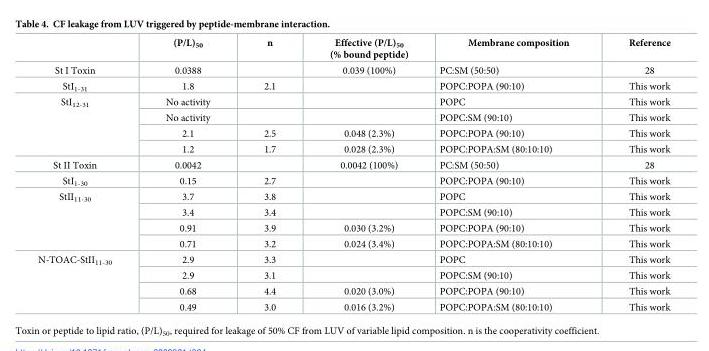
<table><thead><tr><td></td><td>(P/L)<sub>50</sub></td><td>n</td><td>Effective (P/L)<sub>50</sub> (% bound peptide)</td><td>Membrane composition</td><td>Reference</td></tr></thead><tbody><tr><td>St I Toxin</td><td>0.0388</td><td></td><td>0.039 (100%)</td><td>PC:SM (50:50)</td><td>28</td></tr><tr><td>StI<sub>1-31</sub></td><td>1.8</td><td>2.1</td><td></td><td>POPC:POPA (90:10)</td><td>This work</td></tr><tr><td rowspan="4">StI<sub>12-31</sub></td><td>No activity</td><td></td><td></td><td>POPC</td><td>This work</td></tr><tr><td>No activity</td><td></td><td></td><td>POPC:SM (90:10)</td><td>This work</td></tr><tr><td>2.1</td><td>2.5</td><td>0.048 (2.3%)</td><td>POPC:POPA (90:10)</td><td>This work</td></tr><tr><td>1.2</td><td>1.7</td><td>0.028 (2.3%)</td><td>POPC:POPA:SM (80:10:10)</td><td>This work</td></tr><tr><td>St II Toxin</td><td>0.0042</td><td></td><td>0.0042 (100%)</td><td>PC:SM (50:50)</td><td>28</td></tr><tr><td>StI<sub>1-30</sub></td><td>0.15</td><td>2.7</td><td></td><td>POPC:POPA (90:10)</td><td>This work</td></tr><tr><td rowspan="4">StII<sub>11-30</sub></td><td>3.7</td><td>3.8</td><td></td><td>POPC</td><td>This work</td></tr><tr><td>3.4</td><td>3.4</td><td></td><td>POPC:SM (90:10)</td><td>This work</td></tr><tr><td>0.91</td><td>3.9</td><td>0.030 (3.2%)</td><td>POPC:POPA (90:10)</td><td>This work</td></tr><tr><td>0.71</td><td>3.2</td><td>0.024 (3.4%)</td><td>POPC:POPA:SM (80:10:10)</td><td>This work</td></tr><tr><td rowspan="4">N-TOAC-StII<sub>11-30</sub></td><td>2.9</td><td>3.3</td><td></td><td>POPC</td><td>This work</td></tr><tr><td>2.9</td><td>3.1</td><td></td><td>POPC:SM (90:10)</td><td>This work</td></tr><tr><td>0.68</td><td>4.4</td><td>0.020 (3.0%)</td><td>POPC:POPA (90:10)</td><td>This work</td></tr><tr><td>0.49</td><td>3.0</td><td>0.016 (3.2%)</td><td>POPC:POPA:SM (80:10:10)</td><td>This work</td></tr></tbody></table>